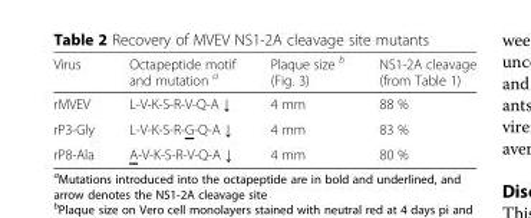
<table><thead><tr><td>Virus</td><td>Octapeptide motif and mutation <sup>a</sup></td><td>Plaque size <sup>b</sup> (Fig. 3)</td><td>NS1-2A cleavage (from Table 1)</td></tr></thead><tbody><tr><td>rMVEV</td><td>L-V-K-S-R-V-Q-A ↓</td><td>4 mm</td><td>88 %</td></tr><tr><td>rP3-Gly</td><td>L-V-K-S-R-G-Q-A ↓</td><td>4 mm</td><td>83 %</td></tr><tr><td>rP8-Ala</td><td>A-V-K-S-R-V-Q-A ↓</td><td>4 mm</td><td>80 %</td></tr></tbody></table>